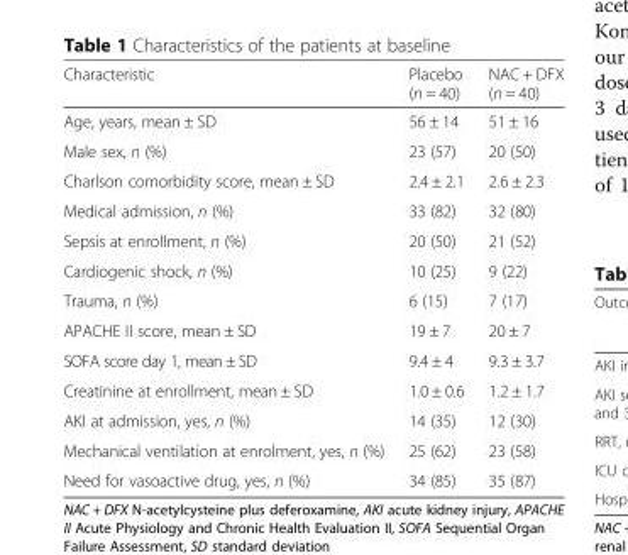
<table><thead><tr><td>Characteristic</td><td>Placebo (n = 40)</td><td>NAC + DFX (n = 40)</td></tr></thead><tbody><tr><td>Age, years, mean ± SD</td><td>56 ± 14</td><td>51 ± 16</td></tr><tr><td>Male sex, n (%)</td><td>23 (57)</td><td>20 (50)</td></tr><tr><td>Charlson comorbidity score, mean ± SD</td><td>2.4 ± 2.1</td><td>2.6 ± 2.3</td></tr><tr><td>Medical admission, n (%)</td><td>33 (82)</td><td>32 (80)</td></tr><tr><td>Sepsis at enrollment, n (%)</td><td>20 (50)</td><td>21 (52)</td></tr><tr><td>Cardiogenic shock, n (%)</td><td>10 (25)</td><td>9 (22)</td></tr><tr><td>Trauma, n (%)</td><td>6 (15)</td><td>7 (17)</td></tr><tr><td>APACHE II score, mean ± SD</td><td>19 ± 7</td><td>20 ± 7</td></tr><tr><td>SOFA score day 1, mean ± SD</td><td>9.4 ± 4</td><td>9.3 ± 3.7</td></tr><tr><td>Creatinine at enrollment, mean ± SD</td><td>1.0 ± 0.6</td><td>1.2 ± 1.7</td></tr><tr><td>AKI at admission, yes, n (%)</td><td>14 (35)</td><td>12 (30)</td></tr><tr><td>Mechanical ventilation at enrolment, yes, n (%)</td><td>25 (62)</td><td>23 (58)</td></tr><tr><td>Need for vasoactive drug, yes, n (%)</td><td>34 (85)</td><td>35 (87)</td></tr></tbody></table>